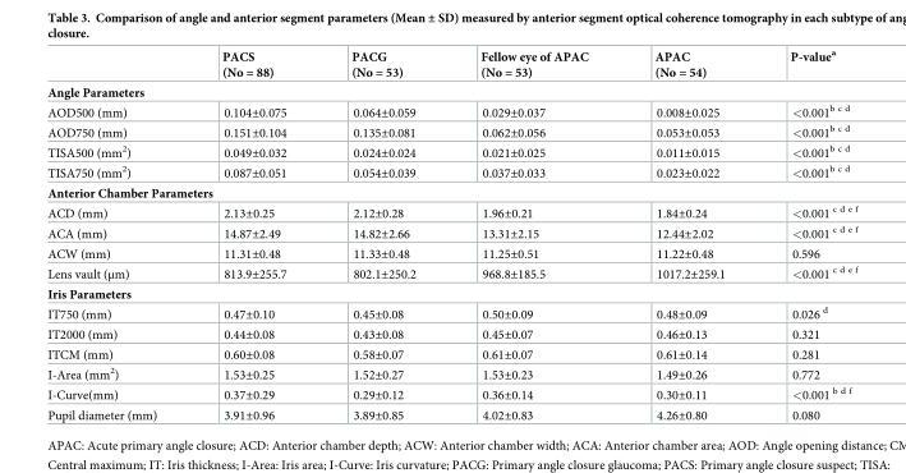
<table><thead><tr><td></td><td>PACS (No = 88)</td><td>PACG (No = 53)</td><td>Fellow eye of APAC (No = 53)</td><td>APAC (No = 54)</td><td>P-value<sup>a</sup></td></tr></thead><tbody><tr><td colspan="6">Angle Parameters</td></tr><tr><td>AOD500 (mm)</td><td>0.104±0.075</td><td>0.064±0.059</td><td>0.029±0.037</td><td>0.008±0.025</td><td>&lt;0.001<sup>b c d</sup></td></tr><tr><td>AOD750 (mm)</td><td>0.151±0.104</td><td>0.135±0.081</td><td>0.062±0.056</td><td>0.053±0.053</td><td>&lt;0.001<sup>b c d</sup></td></tr><tr><td>TISA500 (mm<sup>2</sup>)</td><td>0.049±0.032</td><td>0.024±0.024</td><td>0.021±0.025</td><td>0.011±0.015</td><td>&lt;0.001<sup>b c d</sup></td></tr><tr><td>TISA750 (mm<sup>2</sup>)</td><td>0.087±0.051</td><td>0.054±0.039</td><td>0.037±0.033</td><td>0.023±0.022</td><td>&lt;0.001<sup>b c d</sup></td></tr><tr><td colspan="6">Anterior Chamber Parameters</td></tr><tr><td>ACD (mm)</td><td>2.13±0.25</td><td>2.12±0.28</td><td>1.96±0.21</td><td>1.84±0.24</td><td>&lt;0.001 <sup>c d e f</sup></td></tr><tr><td>ACA (mm)</td><td>14.87±2.49</td><td>14.82±2.66</td><td>13.31±2.15</td><td>12.44±2.02</td><td>&lt;0.001 <sup>c d e f</sup></td></tr><tr><td>ACW (mm)</td><td>11.31±0.48</td><td>11.33±0.48</td><td>11.25±0.51</td><td>11.22±0.48</td><td>0.596</td></tr><tr><td>Lens vault (μm)</td><td>813.9±255.7</td><td>802.1±250.2</td><td>968.8±185.5</td><td>1017.2±259.1</td><td>&lt;0.001 <sup>c d e f</sup></td></tr><tr><td colspan="6">Iris Parameters</td></tr><tr><td>IT750 (mm)</td><td>0.47±0.10</td><td>0.45±0.08</td><td>0.50±0.09</td><td>0.48±0.09</td><td>0.026 <sup>d</sup></td></tr><tr><td>IT2000 (mm)</td><td>0.44±0.08</td><td>0.43±0.08</td><td>0.45±0.07</td><td>0.46±0.13</td><td>0.321</td></tr><tr><td>ITCM (mm)</td><td>0.60±0.08</td><td>0.58±0.07</td><td>0.61±0.07</td><td>0.61±0.14</td><td>0.281</td></tr><tr><td>I-Area (mm<sup>2</sup>)</td><td>1.53±0.25</td><td>1.52±0.27</td><td>1.53±0.23</td><td>1.49±0.26</td><td>0.772</td></tr><tr><td>I-Curve(mm)</td><td>0.37±0.29</td><td>0.29±0.12</td><td>0.36±0.14</td><td>0.30±0.11</td><td>&lt;0.001 <sup>b d f</sup></td></tr><tr><td>Pupil diameter (mm)</td><td>3.91±0.96</td><td>3.89±0.85</td><td>4.02±0.83</td><td>4.26±0.80</td><td>0.080</td></tr></tbody></table>